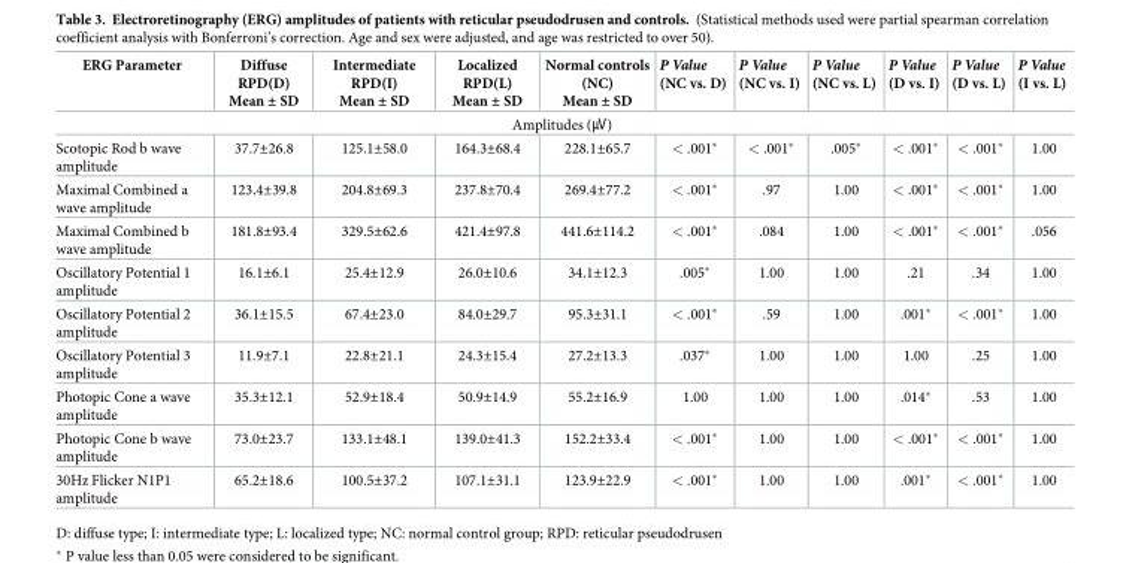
<table><thead><tr><td>ERG Parameter</td><td>Diffuse RPD(D) Mean ± SD</td><td>Intermediate RPD(I) Mean ± SD</td><td>Localized RPD(L) Mean ± SD</td><td>Normal controls (NC) Mean ± SD</td><td>P Value (NC vs. D)</td><td>P Value (NC vs. I)</td><td>P Value (NC vs. L)</td><td>P Value (D vs. I)</td><td>P Value (D vs. L)</td><td>P Value (I vs. L)</td></tr></thead><tbody><tr><td colspan="11">Amplitudes (㎶)</td></tr><tr><td>Scotopic Rod b wave amplitude</td><td>37.7±26.8</td><td>125.1±58.0</td><td>164.3±68.4</td><td>228.1±65.7</td><td>&lt; .001*</td><td>&lt; .001*</td><td>.005*</td><td>&lt; .001*</td><td>&lt; .001*</td><td>1.00</td></tr><tr><td>Maximal Combined a wave amplitude</td><td>123.4±39.8</td><td>204.8±69.3</td><td>237.8±70.4</td><td>269.4±77.2</td><td>&lt; .001*</td><td>.97</td><td>1.00</td><td>&lt; .001*</td><td>&lt; .001*</td><td>1.00</td></tr><tr><td>Maximal Combined b wave amplitude</td><td>181.8±93.4</td><td>329.5±62.6</td><td>421.4±97.8</td><td>441.6±114.2</td><td>&lt; .001*</td><td>.084</td><td>1.00</td><td>&lt; .001*</td><td>&lt; .001*</td><td>.056</td></tr><tr><td>Oscillatory Potential 1 amplitude</td><td>16.1±6.1</td><td>25.4±12.9</td><td>26.0±10.6</td><td>34.1±12.3</td><td>.005*</td><td>1.00</td><td>1.00</td><td>.21</td><td>.34</td><td>1.00</td></tr><tr><td>Oscillatory Potential 2 amplitude</td><td>36.1±15.5</td><td>67.4±23.0</td><td>84.0±29.7</td><td>95.3±31.1</td><td>&lt; .001*</td><td>.59</td><td>1.00</td><td>.001*</td><td>&lt; .001*</td><td>1.00</td></tr><tr><td>Oscillatory Potential 3 amplitude</td><td>11.9±7.1</td><td>22.8±21.1</td><td>24.3±15.4</td><td>27.2±13.3</td><td>.037*</td><td>1.00</td><td>1.00</td><td>1.00</td><td>.25</td><td>1.00</td></tr><tr><td>Photopic Cone a wave amplitude</td><td>35.3±12.1</td><td>52.9±18.4</td><td>50.9±14.9</td><td>55.2±16.9</td><td>1.00</td><td>1.00</td><td>1.00</td><td>.014*</td><td>.53</td><td>1.00</td></tr><tr><td>Photopic Cone b wave amplitude</td><td>73.0±23.7</td><td>133.1±48.1</td><td>139.0±41.3</td><td>152.2±33.4</td><td>&lt; .001*</td><td>1.00</td><td>1.00</td><td>&lt; .001*</td><td>&lt; .001*</td><td>1.00</td></tr><tr><td>30Hz Flicker N1P1 amplitude</td><td>65.2±18.6</td><td>100.5±37.2</td><td>107.1±31.1</td><td>123.9±22.9</td><td>&lt; .001*</td><td>1.00</td><td>1.00</td><td>.001*</td><td>&lt; .001*</td><td>1.00</td></tr></tbody></table>